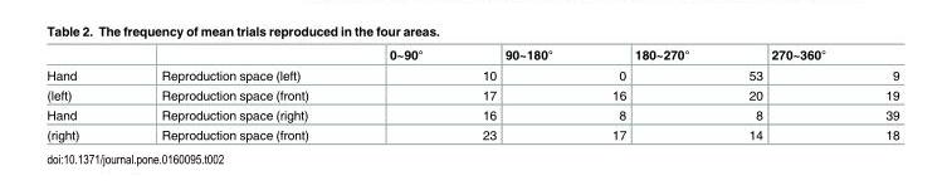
<table><thead><tr><td></td><td></td><td>0~90°</td><td>90~180°</td><td>180~270°</td><td>270~360°</td></tr></thead><tbody><tr><td>Hand</td><td>Reproduction space (left)</td><td>10</td><td>0</td><td>53</td><td>9</td></tr><tr><td>(left)</td><td>Reproduction space (front)</td><td>17</td><td>16</td><td>20</td><td>19</td></tr><tr><td>Hand</td><td>Reproduction space (right)</td><td>16</td><td>8</td><td>8</td><td>39</td></tr><tr><td>(right)</td><td>Reproduction space (front)</td><td>23</td><td>17</td><td>14</td><td>18</td></tr></tbody></table>